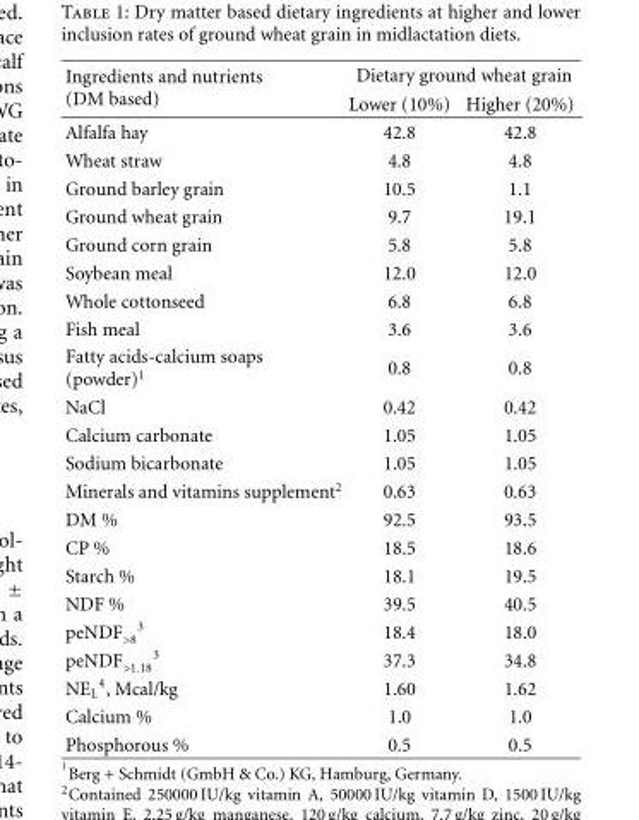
<table><thead><tr><td rowspan="2">Ingredients and nutrients (DM based)</td><td colspan="2">Dietary ground wheat grain</td></tr><tr><td>Lower (10%)</td><td>Higher (20%)</td></tr></thead><tbody><tr><td>Alfalfa hay</td><td>42.8</td><td>42.8</td></tr><tr><td>Wheat straw</td><td>4.8</td><td>4.8</td></tr><tr><td>Ground barley grain</td><td>10.5</td><td>1.1</td></tr><tr><td>Ground wheat grain</td><td>9.7</td><td>19.1</td></tr><tr><td>Ground corn grain</td><td>5.8</td><td>5.8</td></tr><tr><td>Soybean meal</td><td>12.0</td><td>12.0</td></tr><tr><td>Whole cottonseed</td><td>6.8</td><td>6.8</td></tr><tr><td>Fish meal</td><td>3.6</td><td>3.6</td></tr><tr><td>Fatty acids-calcium soaps (powder)<sup>1</sup></td><td>0.8</td><td>0.8</td></tr><tr><td>NaCl</td><td>0.42</td><td>0.42</td></tr><tr><td>Calcium carbonate</td><td>1.05</td><td>1.05</td></tr><tr><td>Sodium bicarbonate</td><td>1.05</td><td>1.05</td></tr><tr><td>Minerals and vitamins supplement<sup>2</sup></td><td>0.63</td><td>0.63</td></tr><tr><td>DM %</td><td>92.5</td><td>93.5</td></tr><tr><td>CP %</td><td>18.5</td><td>18.6</td></tr><tr><td>Starch %</td><td>18.1</td><td>19.5</td></tr><tr><td>NDF %</td><td>39.5</td><td>40.5</td></tr><tr><td>peNDF<sub>&gt;8</sub> <sup>3</sup></td><td>18.4</td><td>18.0</td></tr><tr><td>peNDF<sub>&gt;1.18</sub> <sup>3</sup></td><td>37.3</td><td>34.8</td></tr><tr><td>NE<sub>L</sub> <sup>4</sup>, Mcal/kg</td><td>1.60</td><td>1.62</td></tr><tr><td>Calcium %</td><td>1.0</td><td>1.0</td></tr><tr><td>Phosphorous %</td><td>0.5</td><td>0.5</td></tr></tbody></table>